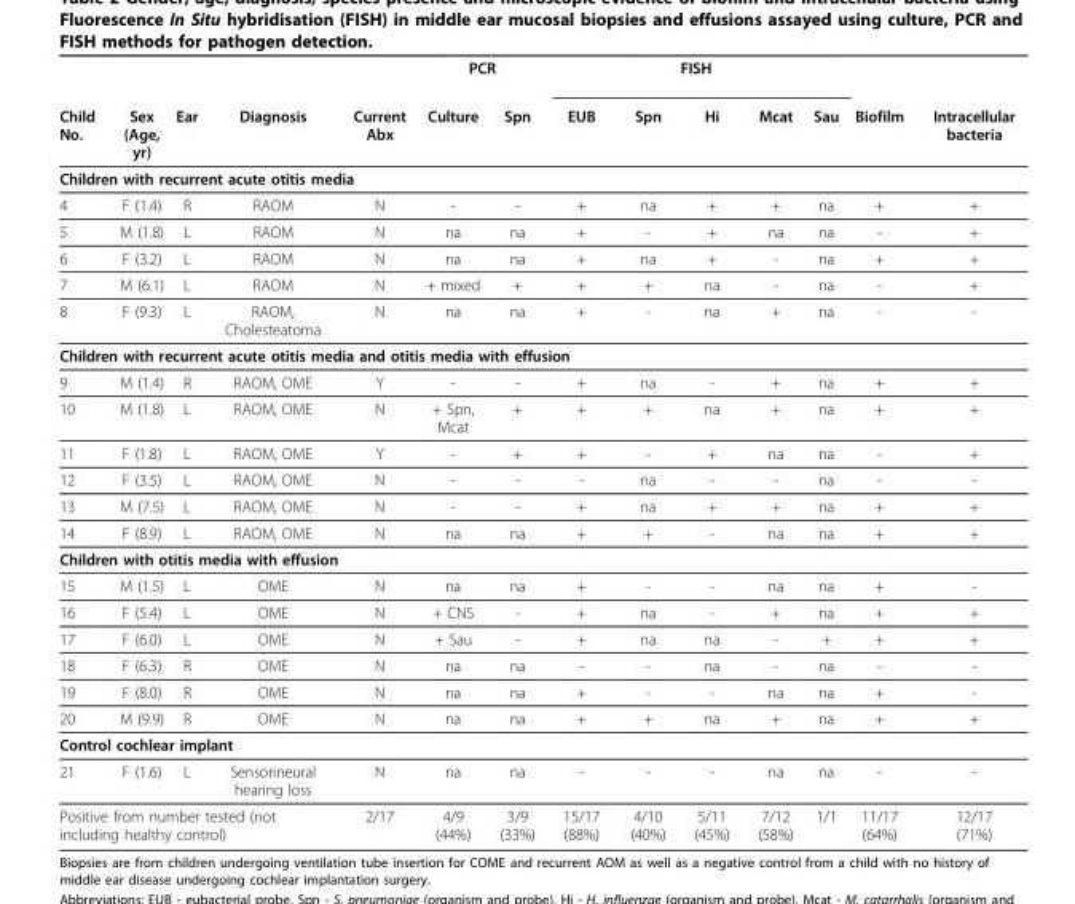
<table><thead><tr><td rowspan="2">Child No.</td><td rowspan="2">Sex (Age, yr)</td><td rowspan="2">Ear</td><td rowspan="2">Diagnosis</td><td rowspan="2">Current Abx</td><td colspan="2">PCR</td><td colspan="5">FISH</td><td rowspan="2">Biofilm</td><td rowspan="2">Intracellular bacteria</td></tr><tr><td>Culture</td><td>Spn</td><td>EUB</td><td>Spn</td><td>Hi</td><td>Mcat</td><td>Sau</td></tr></thead><tbody><tr><td colspan="14">Children with recurrent acute otitis media</td></tr><tr><td>4</td><td>F (1.4)</td><td>R</td><td>RAOM</td><td>N</td><td>-</td><td>-</td><td>+</td><td>na</td><td>+</td><td>+</td><td>na</td><td>+</td><td>+</td></tr><tr><td>5</td><td>M (1.8)</td><td>L</td><td>RAOM</td><td>N</td><td>na</td><td>na</td><td>+</td><td>-</td><td>+</td><td>na</td><td>na</td><td>-</td><td>+</td></tr><tr><td>6</td><td>F (3.2)</td><td>L</td><td>RAOM</td><td>N</td><td>na</td><td>na</td><td>+</td><td>na</td><td>+</td><td>-</td><td>na</td><td>+</td><td>+</td></tr><tr><td>7</td><td>M (6.1)</td><td>L</td><td>RAOM</td><td>N</td><td>+ mixed</td><td>+</td><td>+</td><td>+</td><td>na</td><td>-</td><td>na</td><td>-</td><td>+</td></tr><tr><td>8</td><td>F (9.3)</td><td>L</td><td>RAOM, Cholesteatoma</td><td>N</td><td>na</td><td>na</td><td>+</td><td>-</td><td>na</td><td>+</td><td>na</td><td>-</td><td>-</td></tr><tr><td colspan="14">Children with recurrent acute otitis media and otitis media with effusion</td></tr><tr><td>9</td><td>M (1.4)</td><td>R</td><td>RAOM, OME</td><td>Y</td><td>-</td><td>-</td><td>+</td><td>na</td><td>-</td><td>+</td><td>na</td><td>+</td><td>+</td></tr><tr><td>10</td><td>M (1.8)</td><td>L</td><td>RAOM, OME</td><td>N</td><td>+ Spn, Mcat</td><td>+</td><td>+</td><td>+</td><td>na</td><td>+</td><td>na</td><td>+</td><td>+</td></tr><tr><td>11</td><td>F (1.8)</td><td>L</td><td>RAOM, OME</td><td>Y</td><td>-</td><td>+</td><td>+</td><td>-</td><td>+</td><td>na</td><td>na</td><td>-</td><td>+</td></tr><tr><td>12</td><td>F (3.5)</td><td>L</td><td>RAOM, OME</td><td>N</td><td>-</td><td>-</td><td>-</td><td>na</td><td>-</td><td>-</td><td>na</td><td>-</td><td>-</td></tr><tr><td>13</td><td>M (7.5)</td><td>L</td><td>RAOM, OME</td><td>N</td><td>-</td><td>-</td><td>+</td><td>na</td><td>+</td><td>+</td><td>na</td><td>+</td><td>+</td></tr><tr><td>14</td><td>F (8.9)</td><td>L</td><td>RAOM, OME</td><td>N</td><td>na</td><td>na</td><td>+</td><td>+</td><td>-</td><td>na</td><td>na</td><td>+</td><td>+</td></tr><tr><td colspan="14">Children with otitis media with effusion</td></tr><tr><td>15</td><td>M (1.5)</td><td>L</td><td>OME</td><td>N</td><td>na</td><td>na</td><td>+</td><td>-</td><td>-</td><td>na</td><td>na</td><td>+</td><td>-</td></tr><tr><td>16</td><td>F (5.4)</td><td>L</td><td>OME</td><td>N</td><td>+ CNS</td><td>-</td><td>+</td><td>na</td><td>-</td><td>+</td><td>na</td><td>+</td><td>+</td></tr><tr><td>17</td><td>F (6.0)</td><td>L</td><td>OME</td><td>N</td><td>+ Sau</td><td>-</td><td>+</td><td>na</td><td>na</td><td>-</td><td>+</td><td>+</td><td>+</td></tr><tr><td>18</td><td>F (6.3)</td><td>R</td><td>OME</td><td>N</td><td>na</td><td>na</td><td>-</td><td>-</td><td>na</td><td>-</td><td>na</td><td>-</td><td>-</td></tr><tr><td>19</td><td>F (8.0)</td><td>R</td><td>OME</td><td>N</td><td>na</td><td>na</td><td>+</td><td>-</td><td>-</td><td>na</td><td>na</td><td>+</td><td>-</td></tr><tr><td>20</td><td>M (9.9)</td><td>R</td><td>OME</td><td>N</td><td>na</td><td>na</td><td>+</td><td>+</td><td>na</td><td>+</td><td>na</td><td>+</td><td>+</td></tr><tr><td colspan="14">Control cochlear implant</td></tr><tr><td>21</td><td>F (1.6)</td><td>L</td><td>Sensorineural hearing loss</td><td>N</td><td>na</td><td>na</td><td>-</td><td>-</td><td>-</td><td>na</td><td>na</td><td>-</td><td>-</td></tr><tr><td colspan="4">Positive from number tested (not including healthy control)</td><td>2/17</td><td>4/9 (44%)</td><td>3/9 (33%)</td><td>15/17 (88%)</td><td>4/10 (40%)</td><td>5/11 (45%)</td><td>7/12 (58%)</td><td>1/1</td><td>11/17 (64%)</td><td>12/17 (71%)</td></tr></tbody></table>